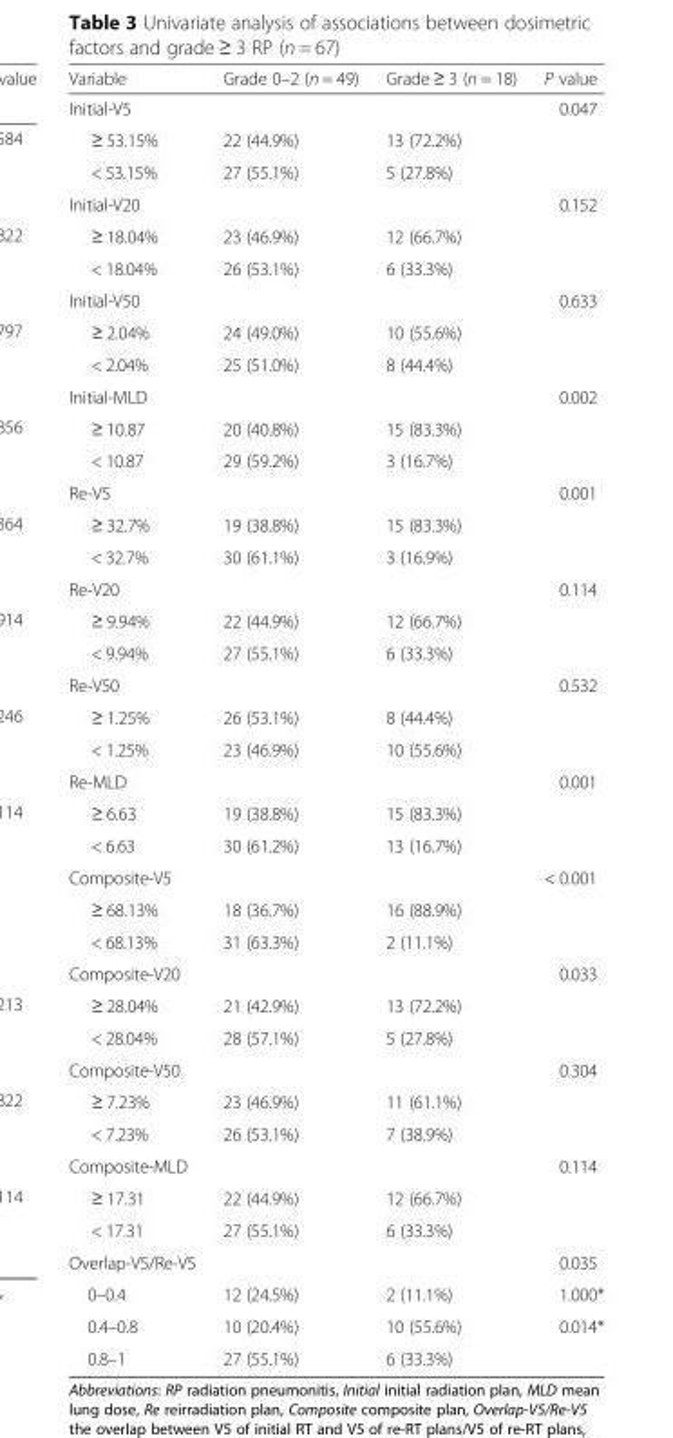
<table><thead><tr><td>Variable</td><td>Grade 0–2 (n = 49)</td><td>Grade ≥ 3 (n = 18)</td><td>P value</td></tr></thead><tbody><tr><td>Initial-V5</td><td></td><td></td><td>0.047</td></tr><tr><td>≥ 53.15%</td><td>22 (44.9%)</td><td>13 (72.2%)</td><td></td></tr><tr><td>&lt; 53.15%</td><td>27 (55.1%)</td><td>5 (27.8%)</td><td></td></tr><tr><td>Initial-V20</td><td></td><td></td><td>0.152</td></tr><tr><td>≥ 18.04%</td><td>23 (46.9%)</td><td>12 (66.7%)</td><td></td></tr><tr><td>&lt; 18.04%</td><td>26 (53.1%)</td><td>6 (33.3%)</td><td></td></tr><tr><td>Initial-V50</td><td></td><td></td><td>0.633</td></tr><tr><td>≥ 2.04%</td><td>24 (49.0%)</td><td>10 (55.6%)</td><td></td></tr><tr><td>&lt; 2.04%</td><td>25 (51.0%)</td><td>8 (44.4%)</td><td></td></tr><tr><td>Initial-MLD</td><td></td><td></td><td>0.002</td></tr><tr><td>≥ 10.87</td><td>20 (40.8%)</td><td>15 (83.3%)</td><td></td></tr><tr><td>&lt; 10.87</td><td>29 (59.2%)</td><td>3 (16.7%)</td><td></td></tr><tr><td>Re-V5</td><td></td><td></td><td>0.001</td></tr><tr><td>≥ 32.7%</td><td>19 (38.8%)</td><td>15 (83.3%)</td><td></td></tr><tr><td>&lt; 32.7%</td><td>30 (61.1%)</td><td>3 (16.9%)</td><td></td></tr><tr><td>Re-V20</td><td></td><td></td><td>0.114</td></tr><tr><td>≥ 9.94%</td><td>22 (44.9%)</td><td>12 (66.7%)</td><td></td></tr><tr><td>&lt; 9.94%</td><td>27 (55.1%)</td><td>6 (33.3%)</td><td></td></tr><tr><td>Re-V50</td><td></td><td></td><td>0.532</td></tr><tr><td>≥ 1.25%</td><td>26 (53.1%)</td><td>8 (44.4%)</td><td></td></tr><tr><td>&lt; 1.25%</td><td>23 (46.9%)</td><td>10 (55.6%)</td><td></td></tr><tr><td>Re-MLD</td><td></td><td></td><td>0.001</td></tr><tr><td>≥ 6.63</td><td>19 (38.8%)</td><td>15 (83.3%)</td><td></td></tr><tr><td>&lt; 6.63</td><td>30 (61.2%)</td><td>13 (16.7%)</td><td></td></tr><tr><td>Composite-V5</td><td></td><td></td><td>&lt; 0.001</td></tr><tr><td>≥ 68.13%</td><td>18 (36.7%)</td><td>16 (88.9%)</td><td></td></tr><tr><td>&lt; 68.13%</td><td>31 (63.3%)</td><td>2 (11.1%)</td><td></td></tr><tr><td>Composite-V20</td><td></td><td></td><td>0.033</td></tr><tr><td>≥ 28.04%</td><td>21 (42.9%)</td><td>13 (72.2%)</td><td></td></tr><tr><td>&lt; 28.04%</td><td>28 (57.1%)</td><td>5 (27.8%)</td><td></td></tr><tr><td>Composite-V50</td><td></td><td></td><td>0.304</td></tr><tr><td>≥ 7.23%</td><td>23 (46.9%)</td><td>11 (61.1%)</td><td></td></tr><tr><td>&lt; 7.23%</td><td>26 (53.1%)</td><td>7 (38.9%)</td><td></td></tr><tr><td>Composite-MLD</td><td></td><td></td><td>0.114</td></tr><tr><td>≥ 17.31</td><td>22 (44.9%)</td><td>12 (66.7%)</td><td></td></tr><tr><td>&lt; 17.31</td><td>27 (55.1%)</td><td>6 (33.3%)</td><td></td></tr><tr><td>Overlap-V5/Re-V5</td><td></td><td></td><td>0.035</td></tr><tr><td>0–0.4</td><td>12 (24.5%)</td><td>2 (11.1%)</td><td>1.000*</td></tr><tr><td>0.4–0.8</td><td>10 (20.4%)</td><td>10 (55.6%)</td><td>0.014*</td></tr><tr><td>0.8–1</td><td>27 (55.1%)</td><td>6 (33.3%)</td><td></td></tr></tbody></table>